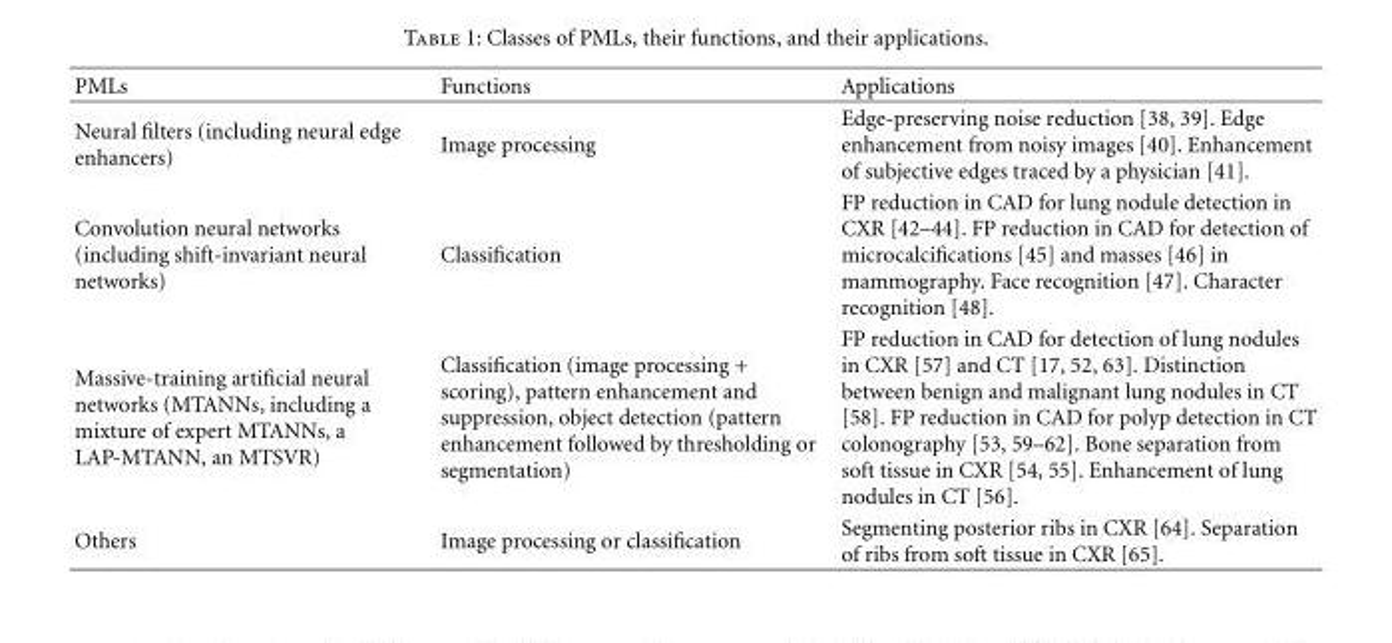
<table><thead><tr><td>PMLs</td><td>Functions</td><td>Applications</td></tr></thead><tbody><tr><td>Neural filters (including neural edge enhancers)</td><td>Image processing</td><td>Edge-preserving noise reduction [38, 39]. Edge enhancement from noisy images [40]. Enhancement of subjective edges traced by a physician [41].</td></tr><tr><td>Convolution neural networks (including shift-invariant neural networks)</td><td>Classification</td><td>FP reduction in CAD for lung nodule detection in CXR [42–44]. FP reduction in CAD for detection of microcalcifications [45] and masses [46] in mammography. Face recognition [47]. Character recognition [48].</td></tr><tr><td>Massive-training artificial neural networks (MTANNs, including a mixture of expert MTANNs, a LAP-MTANN, an MTSVR)</td><td>Classification (image processing + scoring), pattern enhancement and suppression, object detection (pattern enhancement followed by thresholding or segmentation)</td><td>FP reduction in CAD for detection of lung nodules in CXR [57] and CT [17, 52, 63]. Distinction between benign and malignant lung nodules in CT [58]. FP reduction in CAD for polyp detection in CT colonography [53, 59–62]. Bone separation from soft tissue in CXR [54, 55]. Enhancement of lung nodules in CT [56].</td></tr><tr><td>Others</td><td>Image processing or classification</td><td>Segmenting posterior ribs in CXR [64]. Separation of ribs from soft tissue in CXR [65].</td></tr></tbody></table>